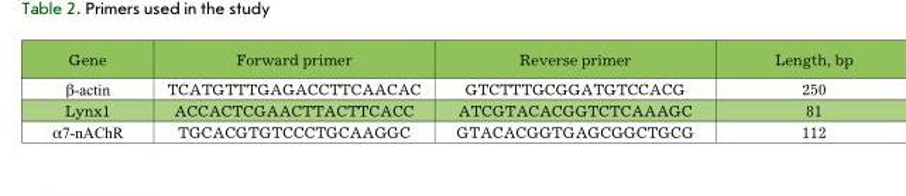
<table><thead><tr><td>Gene</td><td>Forward primer</td><td>Reverse primer</td><td>Length, bp</td></tr></thead><tbody><tr><td>β-actin</td><td>TCATGTTTGAGACCTTCAACAC</td><td>GTCTTTGCGGATGTCCACG</td><td>250</td></tr><tr><td>Lynx1</td><td>ACCACTCGAACTTACTTCACC</td><td>ATCGTACACGGTCTCAAAGC</td><td>81</td></tr><tr><td>α7-nAChR</td><td>TGCACGTGTCCCTGCAAGGC</td><td>GTACACGGTGAGCGGCTGCG</td><td>112</td></tr></tbody></table>